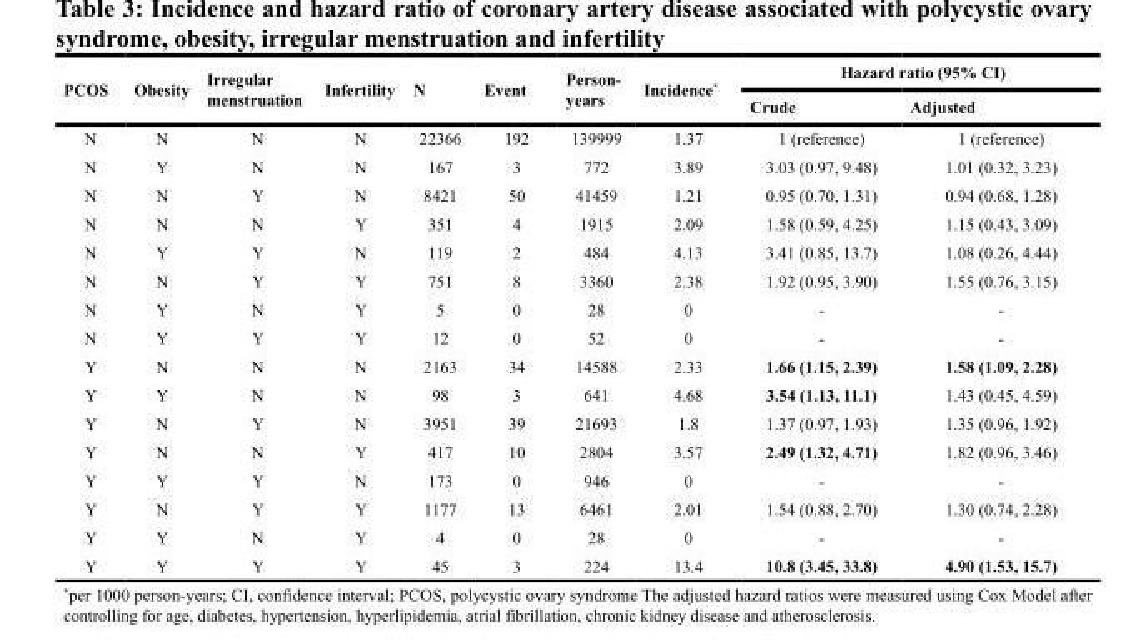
<table><thead><tr><td rowspan="2">PCOS</td><td rowspan="2">Obesity</td><td rowspan="2">Irregular menstruation</td><td rowspan="2">Infertility</td><td rowspan="2">N</td><td rowspan="2">Event</td><td rowspan="2">Person- years</td><td rowspan="2">Incidence*</td><td colspan="2">Hazard ratio (95% CI)</td></tr><tr><td>Crude</td><td>Adjusted</td></tr></thead><tbody><tr><td>N</td><td>N</td><td>N</td><td>N</td><td>22366</td><td>192</td><td>139999</td><td>1.37</td><td>1 (reference)</td><td>1 (reference)</td></tr><tr><td>N</td><td>Y</td><td>N</td><td>N</td><td>167</td><td>3</td><td>772</td><td>3.89</td><td>3.03 (0.97, 9.48)</td><td>1.01 (0.32, 3.23)</td></tr><tr><td>N</td><td>N</td><td>Y</td><td>N</td><td>8421</td><td>50</td><td>41459</td><td>1.21</td><td>0.95 (0.70, 1.31)</td><td>0.94 (0.68, 1.28)</td></tr><tr><td>N</td><td>N</td><td>N</td><td>Y</td><td>351</td><td>4</td><td>1915</td><td>2.09</td><td>1.58 (0.59, 4.25)</td><td>1.15 (0.43, 3.09)</td></tr><tr><td>N</td><td>Y</td><td>Y</td><td>N</td><td>119</td><td>2</td><td>484</td><td>4.13</td><td>3.41 (0.85, 13.7)</td><td>1.08 (0.26, 4.44)</td></tr><tr><td>N</td><td>N</td><td>Y</td><td>Y</td><td>751</td><td>8</td><td>3360</td><td>2.38</td><td>1.92 (0.95, 3.90)</td><td>1.55 (0.76, 3.15)</td></tr><tr><td>N</td><td>Y</td><td>N</td><td>Y</td><td>5</td><td>0</td><td>28</td><td>0</td><td>-</td><td>-</td></tr><tr><td>N</td><td>Y</td><td>Y</td><td>Y</td><td>12</td><td>0</td><td>52</td><td>0</td><td>-</td><td>-</td></tr><tr><td>Y</td><td>N</td><td>N</td><td>N</td><td>2163</td><td>34</td><td>14588</td><td>2.33</td><td>1.66 (1.15, 2.39)</td><td>1.58 (1.09, 2.28)</td></tr><tr><td>Y</td><td>Y</td><td>N</td><td>N</td><td>98</td><td>3</td><td>641</td><td>4.68</td><td>3.54 (1.13, 11.1)</td><td>1.43 (0.45, 4.59)</td></tr><tr><td>Y</td><td>N</td><td>Y</td><td>N</td><td>3951</td><td>39</td><td>21693</td><td>1.8</td><td>1.37 (0.97, 1.93)</td><td>1.35 (0.96, 1.92)</td></tr><tr><td>Y</td><td>N</td><td>N</td><td>Y</td><td>417</td><td>10</td><td>2804</td><td>3.57</td><td>2.49 (1.32, 4.71)</td><td>1.82 (0.96, 3.46)</td></tr><tr><td>Y</td><td>Y</td><td>Y</td><td>N</td><td>173</td><td>0</td><td>946</td><td>0</td><td>-</td><td>-</td></tr><tr><td>Y</td><td>N</td><td>Y</td><td>Y</td><td>1177</td><td>13</td><td>6461</td><td>2.01</td><td>1.54 (0.88, 2.70)</td><td>1.30 (0.74, 2.28)</td></tr><tr><td>Y</td><td>Y</td><td>N</td><td>Y</td><td>4</td><td>0</td><td>28</td><td>0</td><td>-</td><td>-</td></tr><tr><td>Y</td><td>Y</td><td>Y</td><td>Y</td><td>45</td><td>3</td><td>224</td><td>13.4</td><td>10.8 (3.45, 33.8)</td><td>4.90 (1.53, 15.7)</td></tr></tbody></table>